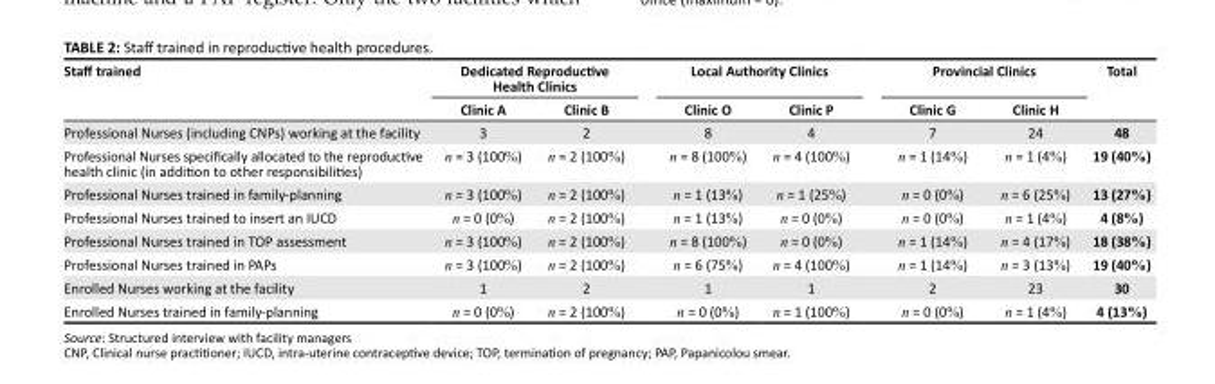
<table><thead><tr><td rowspan="2">Staff trained</td><td colspan="2">Dedicated Reproductive Health Clinics</td><td colspan="2">Local Authority Clinics</td><td colspan="2">Provincial Clinics</td><td rowspan="2">Total</td></tr><tr><td>Clinic A</td><td>Clinic B</td><td>Clinic O</td><td>Clinic P</td><td>Clinic G</td><td>Clinic H</td></tr></thead><tbody><tr><td>Professional Nurses (including CNPs) working at the facility</td><td>3</td><td>2</td><td>8</td><td>4</td><td>7</td><td>24</td><td>48</td></tr><tr><td>Professional Nurses specifically allocated to the reproductive health clinic (in addition to other responsibilities)</td><td>n = 3 (100%)</td><td>n = 2 (100%)</td><td>n = 8 (100%)</td><td>n = 4 (100%)</td><td>n = 1 (14%)</td><td>n = 1 (4%)</td><td>19 (40%)</td></tr><tr><td>Professional Nurses trained in family-planning</td><td>n = 3 (100%)</td><td>n = 2 (100%)</td><td>n = 1 (13%)</td><td>n = 1 (25%)</td><td>n = 0 (0%)</td><td>n = 6 (25%)</td><td>13 (27%)</td></tr><tr><td>Professional Nurses trained to insert an IUCD</td><td>n = 0 (0%)</td><td>n = 2 (100%)</td><td>n = 1 (13%)</td><td>n = 0 (0%)</td><td>n = 0 (0%)</td><td>n = 1 (4%)</td><td>4 (8%)</td></tr><tr><td>Professional Nurses trained in TOP assessment</td><td>n = 3 (100%)</td><td>n = 2 (100%)</td><td>n = 8 (100%)</td><td>n = 0 (0%)</td><td>n = 1 (14%)</td><td>n = 4 (17%)</td><td>18 (38%)</td></tr><tr><td>Professional Nurses trained in PAPs</td><td>n = 3 (100%)</td><td>n = 2 (100%)</td><td>n = 6 (75%)</td><td>n = 4 (100%)</td><td>n = 1 (14%)</td><td>n = 3 (13%)</td><td>19 (40%)</td></tr><tr><td>Enrolled Nurses working at the facility</td><td>1</td><td>2</td><td>1</td><td>1</td><td>2</td><td>23</td><td>30</td></tr><tr><td>Enrolled Nurses trained in family-planning</td><td>n = 0 (0%)</td><td>n = 2 (100%)</td><td>n = 0 (0%)</td><td>n = 1 (100%)</td><td>n = 0 (0%)</td><td>n = 1 (4%)</td><td>4 (13%)</td></tr></tbody></table>